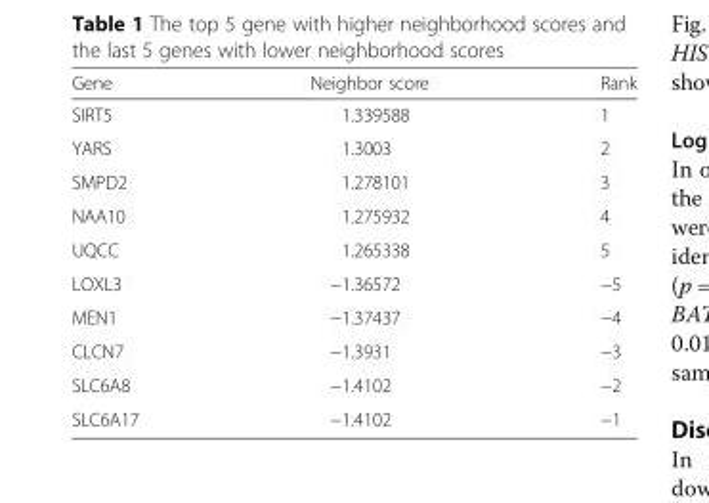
<table><thead><tr><td>Gene</td><td>Neighbor score</td><td>Rank</td></tr></thead><tbody><tr><td>SIRT5</td><td>1.339588</td><td>1</td></tr><tr><td>YARS</td><td>1.3003</td><td>2</td></tr><tr><td>SMPD2</td><td>1.278101</td><td>3</td></tr><tr><td>NAA10</td><td>1.275932</td><td>4</td></tr><tr><td>UQCC</td><td>1.265338</td><td>5</td></tr><tr><td>LOXL3</td><td>−1.36572</td><td>−5</td></tr><tr><td>MEN1</td><td>−1.37437</td><td>−4</td></tr><tr><td>CLCN7</td><td>−1.3931</td><td>−3</td></tr><tr><td>SLC6A8</td><td>−1.4102</td><td>−2</td></tr><tr><td>SLC6A17</td><td>−1.4102</td><td>−1</td></tr></tbody></table>